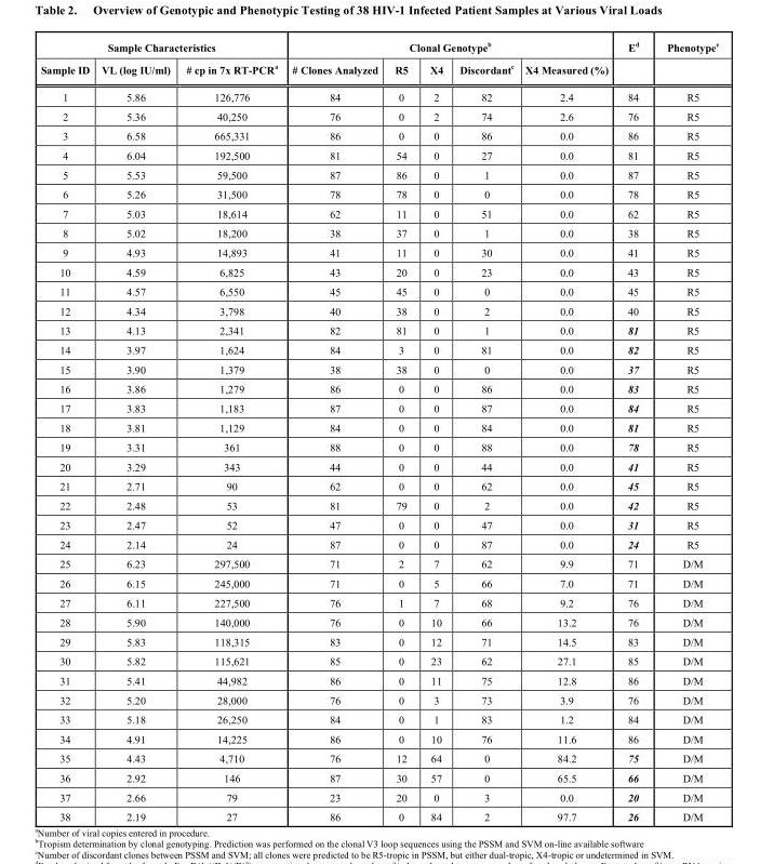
<table><thead><tr><td colspan="3">Sample Characteristics</td><td colspan="5">Clonal Genotype<sup>b</sup></td><td rowspan="2">E<sup>d</sup></td><td rowspan="2">Phenotype<sup>e</sup></td></tr><tr><td>Sample ID</td><td>VL (log IU/ml)</td><td># cp in 7x RT-PCR<sup>a</sup></td><td># Clones Analyzed</td><td>R5</td><td>X4</td><td>Discordant<sup>c</sup></td><td>X4 Measured (%)</td></tr></thead><tbody><tr><td>1</td><td>5.86</td><td>126,776</td><td>84</td><td>0</td><td>2</td><td>82</td><td>2.4</td><td>84</td><td>R5</td></tr><tr><td>2</td><td>5.36</td><td>40,250</td><td>76</td><td>0</td><td>2</td><td>74</td><td>2.6</td><td>76</td><td>R5</td></tr><tr><td>3</td><td>6.58</td><td>665,331</td><td>86</td><td>0</td><td>0</td><td>86</td><td>0.0</td><td>86</td><td>R5</td></tr><tr><td>4</td><td>6.04</td><td>192,500</td><td>81</td><td>54</td><td>0</td><td>27</td><td>0.0</td><td>81</td><td>R5</td></tr><tr><td>5</td><td>5.53</td><td>59,500</td><td>87</td><td>86</td><td>0</td><td>1</td><td>0.0</td><td>87</td><td>R5</td></tr><tr><td>6</td><td>5.26</td><td>31,500</td><td>78</td><td>78</td><td>0</td><td>0</td><td>0.0</td><td>78</td><td>R5</td></tr><tr><td>7</td><td>5.03</td><td>18,614</td><td>62</td><td>11</td><td>0</td><td>51</td><td>0.0</td><td>62</td><td>R5</td></tr><tr><td>8</td><td>5.02</td><td>18,200</td><td>38</td><td>37</td><td>0</td><td>1</td><td>0.0</td><td>38</td><td>R5</td></tr><tr><td>9</td><td>4.93</td><td>14,893</td><td>41</td><td>11</td><td>0</td><td>30</td><td>0.0</td><td>41</td><td>R5</td></tr><tr><td>10</td><td>4.59</td><td>6,825</td><td>43</td><td>20</td><td>0</td><td>23</td><td>0.0</td><td>43</td><td>R5</td></tr><tr><td>11</td><td>4.57</td><td>6,550</td><td>45</td><td>45</td><td>0</td><td>0</td><td>0.0</td><td>45</td><td>R5</td></tr><tr><td>12</td><td>4.34</td><td>3,798</td><td>40</td><td>38</td><td>0</td><td>2</td><td>0.0</td><td>40</td><td>R5</td></tr><tr><td>13</td><td>4.13</td><td>2,341</td><td>82</td><td>81</td><td>0</td><td>1</td><td>0.0</td><td>81</td><td>R5</td></tr><tr><td>14</td><td>3.97</td><td>1,624</td><td>84</td><td>3</td><td>0</td><td>81</td><td>0.0</td><td>82</td><td>R5</td></tr><tr><td>15</td><td>3.90</td><td>1,379</td><td>38</td><td>38</td><td>0</td><td>0</td><td>0.0</td><td>37</td><td>R5</td></tr><tr><td>16</td><td>3.86</td><td>1,279</td><td>86</td><td>0</td><td>0</td><td>86</td><td>0.0</td><td>83</td><td>R5</td></tr><tr><td>17</td><td>3.83</td><td>1,183</td><td>87</td><td>0</td><td>0</td><td>87</td><td>0.0</td><td>84</td><td>R5</td></tr><tr><td>18</td><td>3.81</td><td>1,129</td><td>84</td><td>0</td><td>0</td><td>84</td><td>0.0</td><td>81</td><td>R5</td></tr><tr><td>19</td><td>3.31</td><td>361</td><td>88</td><td>0</td><td>0</td><td>88</td><td>0.0</td><td>78</td><td>R5</td></tr><tr><td>20</td><td>3.29</td><td>343</td><td>44</td><td>0</td><td>0</td><td>44</td><td>0.0</td><td>41</td><td>R5</td></tr><tr><td>21</td><td>2.71</td><td>90</td><td>62</td><td>0</td><td>0</td><td>62</td><td>0.0</td><td>45</td><td>R5</td></tr><tr><td>22</td><td>2.48</td><td>53</td><td>81</td><td>79</td><td>0</td><td>2</td><td>0.0</td><td>42</td><td>R5</td></tr><tr><td>23</td><td>2.47</td><td>52</td><td>47</td><td>0</td><td>0</td><td>47</td><td>0.0</td><td>31</td><td>R5</td></tr><tr><td>24</td><td>2.14</td><td>24</td><td>87</td><td>0</td><td>0</td><td>87</td><td>0.0</td><td>24</td><td>R5</td></tr><tr><td>25</td><td>6.23</td><td>297,500</td><td>71</td><td>2</td><td>7</td><td>62</td><td>9.9</td><td>71</td><td>D/M</td></tr><tr><td>26</td><td>6.15</td><td>245,000</td><td>71</td><td>0</td><td>5</td><td>66</td><td>7.0</td><td>71</td><td>D/M</td></tr><tr><td>27</td><td>6.11</td><td>227,500</td><td>76</td><td>1</td><td>7</td><td>68</td><td>9.2</td><td>76</td><td>D/M</td></tr><tr><td>28</td><td>5.90</td><td>140,000</td><td>76</td><td>0</td><td>10</td><td>66</td><td>13.2</td><td>76</td><td>D/M</td></tr><tr><td>29</td><td>5.83</td><td>118,315</td><td>83</td><td>0</td><td>12</td><td>71</td><td>14.5</td><td>83</td><td>D/M</td></tr><tr><td>30</td><td>5.82</td><td>115,621</td><td>85</td><td>0</td><td>23</td><td>62</td><td>27.1</td><td>85</td><td>D/M</td></tr><tr><td>31</td><td>5.41</td><td>44,982</td><td>86</td><td>0</td><td>11</td><td>75</td><td>12.8</td><td>86</td><td>D/M</td></tr><tr><td>32</td><td>5.20</td><td>28,000</td><td>76</td><td>0</td><td>3</td><td>73</td><td>3.9</td><td>76</td><td>D/M</td></tr><tr><td>33</td><td>5.18</td><td>26,250</td><td>84</td><td>0</td><td>1</td><td>83</td><td>1.2</td><td>84</td><td>D/M</td></tr><tr><td>34</td><td>4.91</td><td>14,225</td><td>86</td><td>0</td><td>10</td><td>76</td><td>11.6</td><td>86</td><td>D/M</td></tr><tr><td>35</td><td>4.43</td><td>4,710</td><td>76</td><td>12</td><td>64</td><td>0</td><td>84.2</td><td>75</td><td>D/M</td></tr><tr><td>36</td><td>2.92</td><td>146</td><td>87</td><td>30</td><td>57</td><td>0</td><td>65.5</td><td>66</td><td>D/M</td></tr><tr><td>37</td><td>2.66</td><td>79</td><td>23</td><td>20</td><td>0</td><td>3</td><td>0.0</td><td>20</td><td>D/M</td></tr><tr><td>38</td><td>2.19</td><td>27</td><td>86</td><td>0</td><td>84</td><td>2</td><td>97.7</td><td>26</td><td>D/M</td></tr></tbody></table>